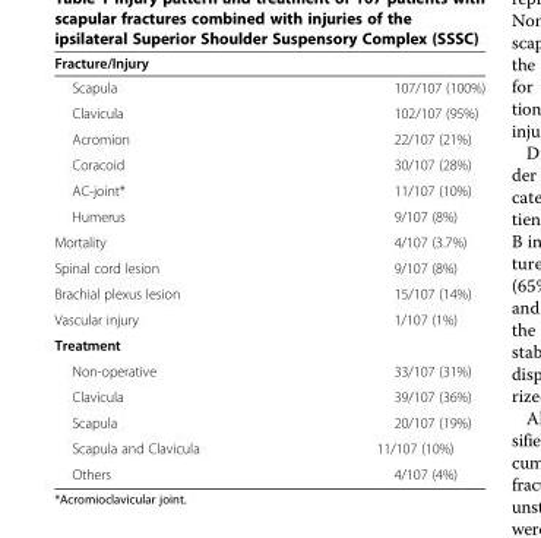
<table><thead><tr><td>Fracture/Injury</td><td></td></tr></thead><tbody><tr><td>Scapula</td><td>107/107 (100%)</td></tr><tr><td>Clavicula</td><td>102/107 (95%)</td></tr><tr><td>Acromion</td><td>22/107 (21%)</td></tr><tr><td>Coracoid</td><td>30/107 (28%)</td></tr><tr><td>AC-joint*</td><td>11/107 (10%)</td></tr><tr><td>Humerus</td><td>9/107 (8%)</td></tr><tr><td>Mortality</td><td>4/107 (3.7%)</td></tr><tr><td>Spinal cord lesion</td><td>9/107 (8%)</td></tr><tr><td>Brachial plexus lesion</td><td>15/107 (14%)</td></tr><tr><td>Vascular injury</td><td>1/107 (1%)</td></tr><tr><td colspan="2">Treatment</td></tr><tr><td>Non-operative</td><td>33/107 (31%)</td></tr><tr><td>Clavicula</td><td>39/107 (36%)</td></tr><tr><td>Scapula</td><td>20/107 (19%)</td></tr><tr><td>Scapula and Clavicula</td><td>11/107 (10%)</td></tr><tr><td>Others</td><td>4/107 (4%)</td></tr></tbody></table>